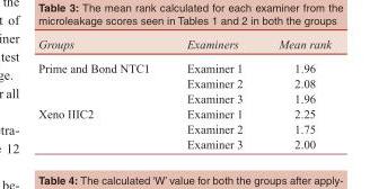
<table><tbody><tr><td>Groups</td><td>Examiners</td><td>Mean rank</td></tr><tr><td rowspan="3">Prime and Bond NTC1</td><td>Examiner 1</td><td>1.96</td></tr><tr><td>Examiner 2</td><td>2.08</td></tr><tr><td>Examiner 3</td><td>1.96</td></tr><tr><td rowspan="3">Xeno IIIC2</td><td>Examiner 1</td><td>2.25</td></tr><tr><td>Examiner 2</td><td>1.75</td></tr><tr><td>Examiner 3</td><td>2.00</td></tr></tbody></table>